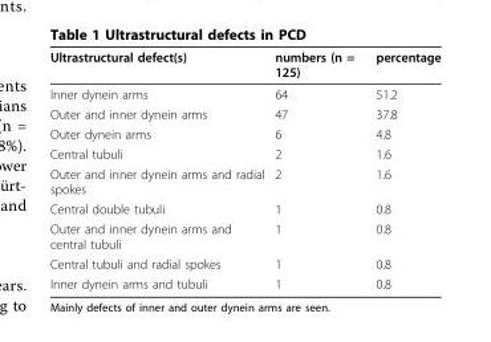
<table><thead><tr><td>Ultrastructural defect(s)</td><td>numbers (n = 125)</td><td>percentage</td></tr></thead><tbody><tr><td>Inner dynein arms</td><td>64</td><td>51.2</td></tr><tr><td>Outer and inner dynein arms</td><td>47</td><td>37.8</td></tr><tr><td>Outer dynein arms</td><td>6</td><td>4.8</td></tr><tr><td>Central tubuli</td><td>2</td><td>1.6</td></tr><tr><td>Outer and inner dynein arms and radial spokes</td><td>2</td><td>1.6</td></tr><tr><td>Central double tubuli</td><td>1</td><td>0.8</td></tr><tr><td>Outer and inner dynein arms and central tubuli</td><td>1</td><td>0.8</td></tr><tr><td>Central tubuli and radial spokes</td><td>1</td><td>0.8</td></tr><tr><td>Inner dynein arms and tubuli</td><td>1</td><td>0.8</td></tr></tbody></table>